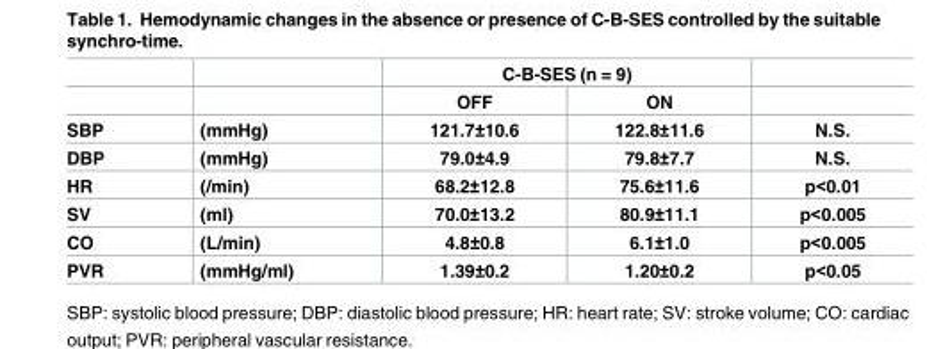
<table><thead><tr><td rowspan="2"></td><td rowspan="2"></td><td colspan="2">C-B-SES (n = 9)</td><td rowspan="2"></td></tr><tr><td>OFF</td><td>ON</td></tr></thead><tbody><tr><td>SBP</td><td>(mmHg)</td><td>121.7±10.6</td><td>122.8±11.6</td><td>N.S.</td></tr><tr><td>DBP</td><td>(mmHg)</td><td>79.0±4.9</td><td>79.8±7.7</td><td>N.S.</td></tr><tr><td>HR</td><td>(/min)</td><td>68.2±12.8</td><td>75.6±11.6</td><td>p&lt;0.01</td></tr><tr><td>SV</td><td>(ml)</td><td>70.0±13.2</td><td>80.9±11.1</td><td>p&lt;0.005</td></tr><tr><td>CO</td><td>(L/min)</td><td>4.8±0.8</td><td>6.1±1.0</td><td>p&lt;0.005</td></tr><tr><td>PVR</td><td>(mmHg/ml)</td><td>1.39±0.2</td><td>1.20±0.2</td><td>p&lt;0.05</td></tr></tbody></table>